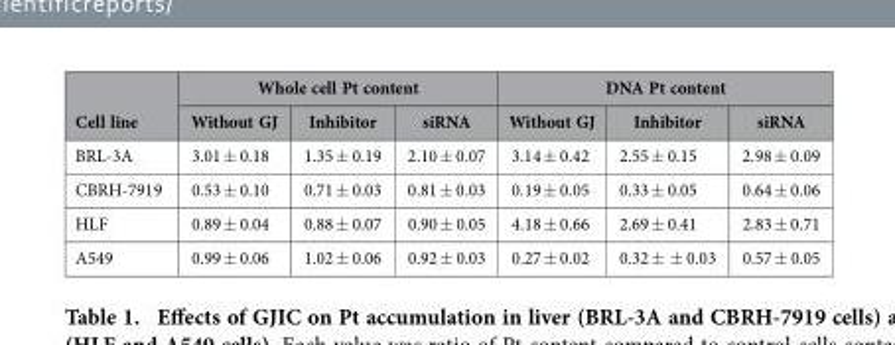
<table><thead><tr><td rowspan="2">Cell line</td><td colspan="3">Whole cell Pt content</td><td colspan="3">DNA Pt content</td></tr><tr><td>Without GJ</td><td>Inhibitor</td><td>siRNA</td><td>Without GJ</td><td>Inhibitor</td><td>siRNA</td></tr></thead><tbody><tr><td>BRL-3A</td><td>3.01 ± 0.18</td><td>1.35 ± 0.19</td><td>2.10 ± 0.07</td><td>3.14 ± 0.42</td><td>2.55 ± 0.15</td><td>2.98 ± 0.09</td></tr><tr><td>CBRH-7919</td><td>0.53 ± 0.10</td><td>0.71 ± 0.03</td><td>0.81 ± 0.03</td><td>0.19 ± 0.05</td><td>0.33 ± 0.05</td><td>0.64 ± 0.06</td></tr><tr><td>HLF</td><td>0.89 ± 0.04</td><td>0.88 ± 0.07</td><td>0.90 ± 0.05</td><td>4.18 ± 0.66</td><td>2.69 ± 0.41</td><td>2.83 ± 0.71</td></tr><tr><td>A549</td><td>0.99 ± 0.06</td><td>1.02 ± 0.06</td><td>0.92 ± 0.03</td><td>0.27 ± 0.02</td><td>0.32 ± ± 0.03</td><td>0.57 ± 0.05</td></tr></tbody></table>